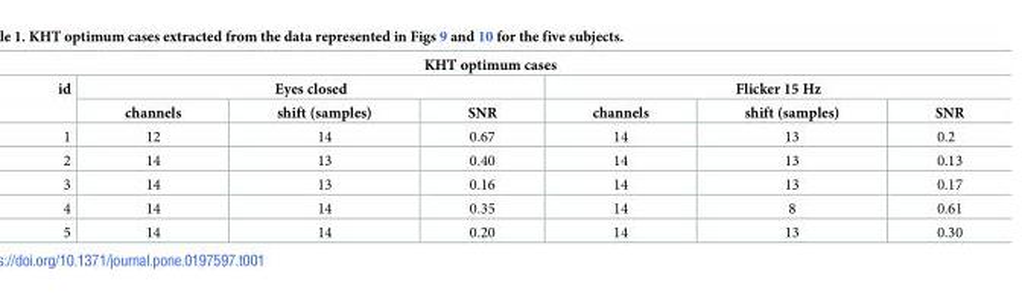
<table><thead><tr><td colspan="7">KHT optimum cases</td></tr><tr><td rowspan="2">id</td><td colspan="3">Eyes closed</td><td colspan="3">Flicker 15 Hz</td></tr><tr><td>channels</td><td>shift (samples)</td><td>SNR</td><td>channels</td><td>shift (samples)</td><td>SNR</td></tr></thead><tbody><tr><td>1</td><td>12</td><td>14</td><td>0.67</td><td>14</td><td>13</td><td>0.2</td></tr><tr><td>2</td><td>14</td><td>13</td><td>0.40</td><td>14</td><td>13</td><td>0.13</td></tr><tr><td>3</td><td>14</td><td>13</td><td>0.16</td><td>14</td><td>13</td><td>0.17</td></tr><tr><td>4</td><td>14</td><td>14</td><td>0.35</td><td>14</td><td>8</td><td>0.61</td></tr><tr><td>5</td><td>14</td><td>14</td><td>0.20</td><td>14</td><td>13</td><td>0.30</td></tr></tbody></table>